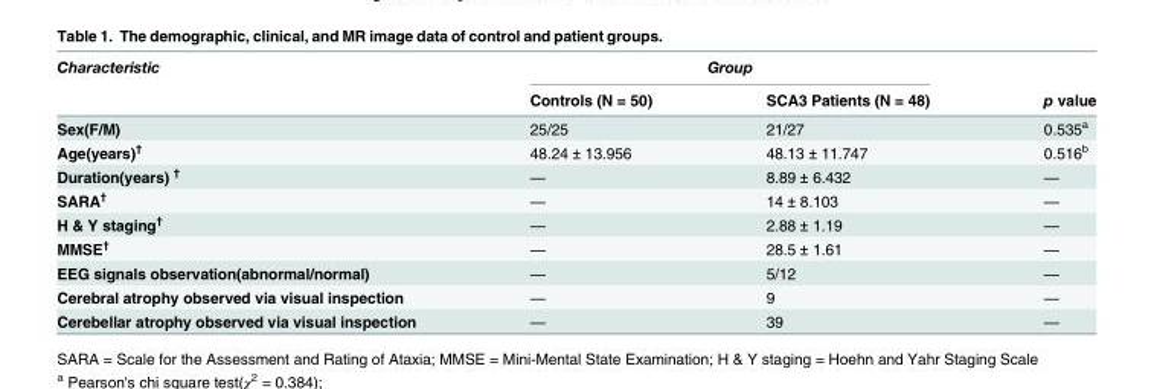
<table><thead><tr><td rowspan="2">Characteristic</td><td colspan="2">Group</td><td rowspan="2">p value</td></tr><tr><td>Controls (N = 50)</td><td>SCA3 Patients (N = 48)</td></tr></thead><tbody><tr><td>Sex(F/M)</td><td>25/25</td><td>21/27</td><td>0.535<sup>a</sup></td></tr><tr><td>Age(years)<sup>†</sup></td><td>48.24 ± 13.956</td><td>48.13 ± 11.747</td><td>0.516<sup>b</sup></td></tr><tr><td>Duration(years) <sup>†</sup></td><td>—</td><td>8.89 ± 6.432</td><td>—</td></tr><tr><td>SARA<sup>†</sup></td><td>—</td><td>14 ± 8.103</td><td>—</td></tr><tr><td>H &amp; Y staging<sup>†</sup></td><td>—</td><td>2.88 ± 1.19</td><td>—</td></tr><tr><td>MMSE<sup>†</sup></td><td>—</td><td>28.5 ± 1.61</td><td>—</td></tr><tr><td>EEG signals observation(abnormal/normal)</td><td>—</td><td>5/12</td><td>—</td></tr><tr><td>Cerebral atrophy observed via visual inspection</td><td>—</td><td>9</td><td>—</td></tr><tr><td>Cerebellar atrophy observed via visual inspection</td><td>—</td><td>39</td><td>—</td></tr></tbody></table>